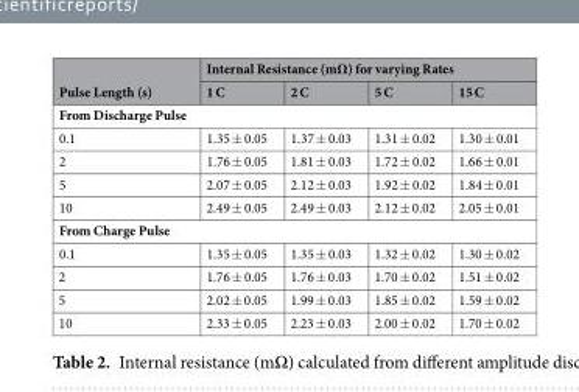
<table><thead><tr><td rowspan="2">Pulse Length (s)</td><td colspan="4">Internal Resistance (mΩ) for varying Rates</td></tr><tr><td>1 C</td><td>2 C</td><td>5 C</td><td>15 C</td></tr></thead><tbody><tr><td colspan="5">From Discharge Pulse</td></tr><tr><td>0.1</td><td>1.35 ± 0.05</td><td>1.37 ± 0.03</td><td>1.31 ± 0.02</td><td>1.30 ± 0.01</td></tr><tr><td>2</td><td>1.76 ± 0.05</td><td>1.81 ± 0.03</td><td>1.72 ± 0.02</td><td>1.66 ± 0.01</td></tr><tr><td>5</td><td>2.07 ± 0.05</td><td>2.12 ± 0.03</td><td>1.92 ± 0.02</td><td>1.84 ± 0.01</td></tr><tr><td>10</td><td>2.49 ± 0.05</td><td>2.49 ± 0.03</td><td>2.12 ± 0.02</td><td>2.05 ± 0.01</td></tr><tr><td colspan="5">From Charge Pulse</td></tr><tr><td>0.1</td><td>1.35 ± 0.05</td><td>1.35 ± 0.03</td><td>1.32 ± 0.02</td><td>1.30 ± 0.02</td></tr><tr><td>2</td><td>1.76 ± 0.05</td><td>1.76 ± 0.03</td><td>1.70 ± 0.02</td><td>1.51 ± 0.02</td></tr><tr><td>5</td><td>2.02 ± 0.05</td><td>1.99 ± 0.03</td><td>1.85 ± 0.02</td><td>1.59 ± 0.02</td></tr><tr><td>10</td><td>2.33 ± 0.05</td><td>2.23 ± 0.03</td><td>2.00 ± 0.02</td><td>1.70 ± 0.02</td></tr></tbody></table>